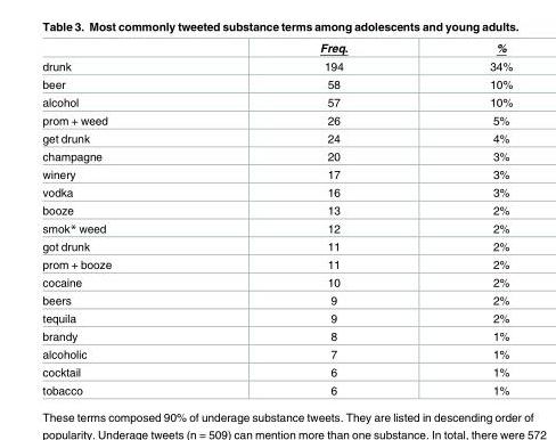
<table><thead><tr><td></td><td>Freq.</td><td>%</td></tr></thead><tbody><tr><td>drunk</td><td>194</td><td>34%</td></tr><tr><td>beer</td><td>58</td><td>10%</td></tr><tr><td>alcohol</td><td>57</td><td>10%</td></tr><tr><td>prom + weed</td><td>26</td><td>5%</td></tr><tr><td>get drunk</td><td>24</td><td>4%</td></tr><tr><td>champagne</td><td>20</td><td>3%</td></tr><tr><td>winery</td><td>17</td><td>3%</td></tr><tr><td>vodka</td><td>16</td><td>3%</td></tr><tr><td>booze</td><td>13</td><td>2%</td></tr><tr><td>smok* weed</td><td>12</td><td>2%</td></tr><tr><td>got drunk</td><td>11</td><td>2%</td></tr><tr><td>prom + booze</td><td>11</td><td>2%</td></tr><tr><td>cocaine</td><td>10</td><td>2%</td></tr><tr><td>beers</td><td>9</td><td>2%</td></tr><tr><td>tequila</td><td>9</td><td>2%</td></tr><tr><td>brandy</td><td>8</td><td>1%</td></tr><tr><td>alcoholic</td><td>7</td><td>1%</td></tr><tr><td>cocktail</td><td>6</td><td>1%</td></tr><tr><td>tobacco</td><td>6</td><td>1%</td></tr></tbody></table>